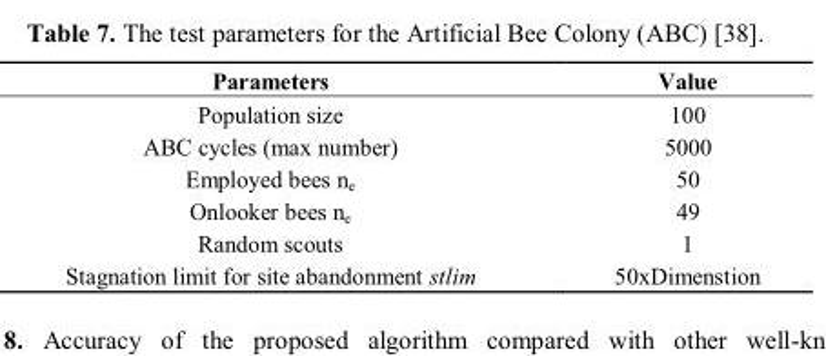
<table><thead><tr><td>Parameters</td><td>Value</td></tr></thead><tbody><tr><td>Population size</td><td>100</td></tr><tr><td>ABC cycles (max number)</td><td>5000</td></tr><tr><td>Employed bees n<sub>e</sub></td><td>50</td></tr><tr><td>Onlooker bees n<sub>e</sub></td><td>49</td></tr><tr><td>Random scouts</td><td>1</td></tr><tr><td>Stagnation limit for site abandonment stlim</td><td>50xDimenstion</td></tr></tbody></table>